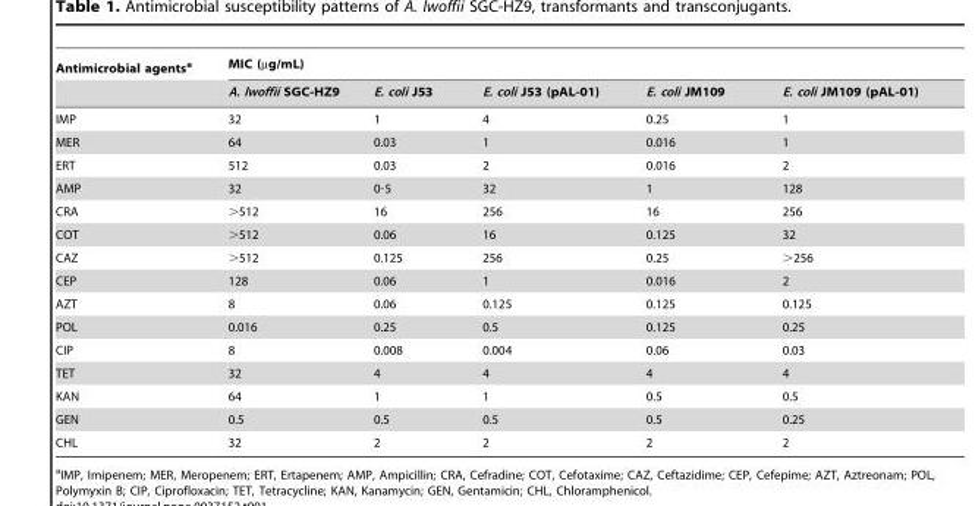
<table><thead><tr><td rowspan="2">Antimicrobial agents<sup>a</sup></td><td colspan="5">MIC (µg/mL)</td></tr><tr><td>A. lwoffii SGC-HZ9</td><td>E. coli J53</td><td>E. coli J53 (pAL-01)</td><td>E. coli JM109</td><td>E. coli JM109 (pAL-01)</td></tr></thead><tbody><tr><td>IMP</td><td>32</td><td>1</td><td>4</td><td>0.25</td><td>1</td></tr><tr><td>MER</td><td>64</td><td>0.03</td><td>1</td><td>0.016</td><td>1</td></tr><tr><td>ERT</td><td>512</td><td>0.03</td><td>2</td><td>0.016</td><td>2</td></tr><tr><td>AMP</td><td>32</td><td>0·5</td><td>32</td><td>1</td><td>128</td></tr><tr><td>CRA</td><td>&gt;512</td><td>16</td><td>256</td><td>16</td><td>256</td></tr><tr><td>COT</td><td>&gt;512</td><td>0.06</td><td>16</td><td>0.125</td><td>32</td></tr><tr><td>CAZ</td><td>&gt;512</td><td>0.125</td><td>256</td><td>0.25</td><td>&gt;256</td></tr><tr><td>CEP</td><td>128</td><td>0.06</td><td>1</td><td>0.016</td><td>2</td></tr><tr><td>AZT</td><td>8</td><td>0.06</td><td>0.125</td><td>0.125</td><td>0.125</td></tr><tr><td>POL</td><td>0.016</td><td>0.25</td><td>0.5</td><td>0.125</td><td>0.25</td></tr><tr><td>CIP</td><td>8</td><td>0.008</td><td>0.004</td><td>0.06</td><td>0.03</td></tr><tr><td>TET</td><td>32</td><td>4</td><td>4</td><td>4</td><td>4</td></tr><tr><td>KAN</td><td>64</td><td>1</td><td>1</td><td>0.5</td><td>0.5</td></tr><tr><td>GEN</td><td>0.5</td><td>0.5</td><td>0.5</td><td>0.5</td><td>0.25</td></tr><tr><td>CHL</td><td>32</td><td>2</td><td>2</td><td>2</td><td>2</td></tr></tbody></table>